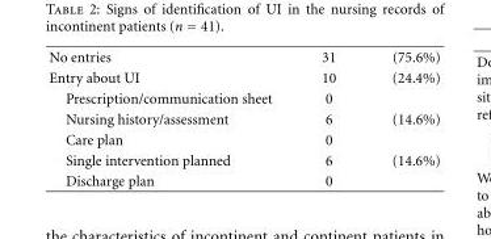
<table><tbody><tr><td>No entries</td><td>31</td><td>(75.6%)</td></tr><tr><td>Entry about UI</td><td>10</td><td>(24.4%)</td></tr><tr><td>Prescription/communication sheet</td><td>0</td><td></td></tr><tr><td>Nursing history/assessment</td><td>6</td><td>(14.6%)</td></tr><tr><td>Care plan</td><td>0</td><td></td></tr><tr><td>Single intervention planned</td><td>6</td><td>(14.6%)</td></tr><tr><td>Discharge plan</td><td>0</td><td></td></tr></tbody></table>